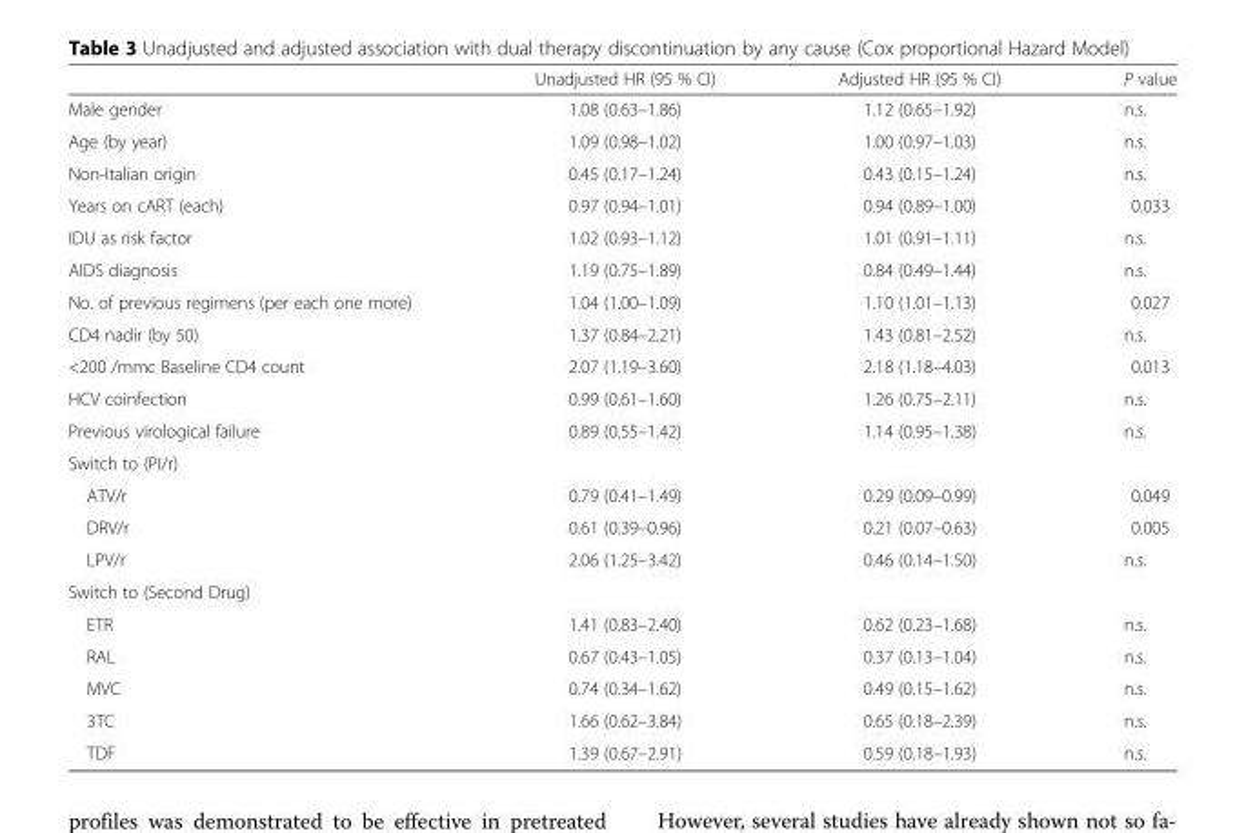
<table><thead><tr><td></td><td>Unadjusted HR (95 % CI)</td><td>Adjusted HR (95 % CI)</td><td>P value</td></tr></thead><tbody><tr><td>Male gender</td><td>1.08 (0.63–1.86)</td><td>1.12 (0.65–1.92)</td><td>n.s.</td></tr><tr><td>Age (by year)</td><td>1.09 (0.98–1.02)</td><td>1.00 (0.97–1.03)</td><td>n.s.</td></tr><tr><td>Non-Italian origin</td><td>0.45 (0.17–1.24)</td><td>0.43 (0.15–1.24)</td><td>n.s.</td></tr><tr><td>Years on cART (each)</td><td>0.97 (0.94–1.01)</td><td>0.94 (0.89–1.00)</td><td>0.033</td></tr><tr><td>IDU as risk factor</td><td>1.02 (0.93–1.12)</td><td>1.01 (0.91–1.11)</td><td>n.s.</td></tr><tr><td>AIDS diagnosis</td><td>1.19 (0.75–1.89)</td><td>0.84 (0.49–1.44)</td><td>n.s.</td></tr><tr><td>No. of previous regimens (per each one more)</td><td>1.04 (1.00–1.09)</td><td>1.10 (1.01–1.13)</td><td>0.027</td></tr><tr><td>CD4 nadir (by 50)</td><td>1.37 (0.84–2.21)</td><td>1.43 (0.81–2.52)</td><td>n.s.</td></tr><tr><td>&lt;200 /mmc Baseline CD4 count</td><td>2.07 (1.19–3.60)</td><td>2.18 (1.18–4.03)</td><td>0.013</td></tr><tr><td>HCV coinfection</td><td>0.99 (0.61–1.60)</td><td>1.26 (0.75–2.11)</td><td>n.s.</td></tr><tr><td>Previous virological failure</td><td>0.89 (0.55–1.42)</td><td>1.14 (0.95–1.38)</td><td>n.s.</td></tr><tr><td colspan="4">Switch to (PI/r)</td></tr><tr><td>ATV/r</td><td>0.79 (0.41–1.49)</td><td>0.29 (0.09–0.99)</td><td>0.049</td></tr><tr><td>DRV/r</td><td>0.61 (0.39–0.96)</td><td>0.21 (0.07–0.63)</td><td>0.005</td></tr><tr><td>LPV/r</td><td>2.06 (1.25–3.42)</td><td>0.46 (0.14–1.50)</td><td>n.s.</td></tr><tr><td colspan="4">Switch to (Second Drug)</td></tr><tr><td>ETR</td><td>1.41 (0.83–2.40)</td><td>0.62 (0.23–1.68)</td><td>n.s.</td></tr><tr><td>RAL</td><td>0.67 (0.43–1.05)</td><td>0.37 (0.13–1.04)</td><td>n.s.</td></tr><tr><td>MVC</td><td>0.74 (0.34–1.62)</td><td>0.49 (0.15–1.62)</td><td>n.s.</td></tr><tr><td>3TC</td><td>1.66 (0.62–3.84)</td><td>0.65 (0.18–2.39)</td><td>n.s.</td></tr><tr><td>TDF</td><td>1.39 (0.67–2.91)</td><td>0.59 (0.18–1.93)</td><td>n.s.</td></tr></tbody></table>